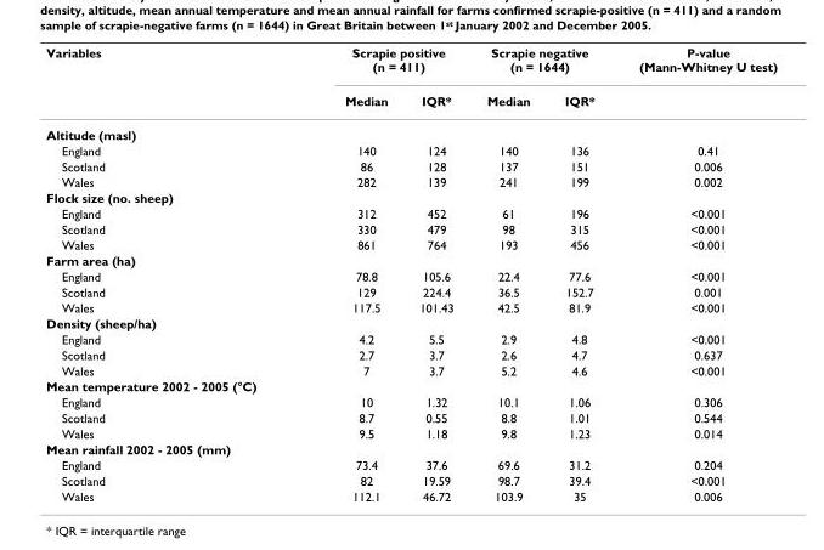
<table><thead><tr><td rowspan="2">Variables</td><td colspan="2">Scrapie positive (n = 411)</td><td colspan="2">Scrapie negative (n = 1644)</td><td rowspan="2">P-value (Mann-Whitney U test)</td></tr><tr><td>Median</td><td>IQR*</td><td>Median</td><td>IQR*</td></tr></thead><tbody><tr><td colspan="6">Altitude (masl)</td></tr><tr><td>England</td><td>140</td><td>124</td><td>140</td><td>136</td><td>0.41</td></tr><tr><td>Scotland</td><td>86</td><td>128</td><td>137</td><td>151</td><td>0.006</td></tr><tr><td>Wales</td><td>282</td><td>139</td><td>241</td><td>199</td><td>0.002</td></tr><tr><td colspan="6">Flock size (no. sheep)</td></tr><tr><td>England</td><td>312</td><td>452</td><td>61</td><td>196</td><td>&lt;0.001</td></tr><tr><td>Scotland</td><td>330</td><td>479</td><td>98</td><td>315</td><td>&lt;0.001</td></tr><tr><td>Wales</td><td>861</td><td>764</td><td>193</td><td>456</td><td>&lt;0.001</td></tr><tr><td colspan="6">Farm area (ha)</td></tr><tr><td>England</td><td>78.8</td><td>105.6</td><td>22.4</td><td>77.6</td><td>&lt;0.001</td></tr><tr><td>Scotland</td><td>129</td><td>224.4</td><td>36.5</td><td>152.7</td><td>0.001</td></tr><tr><td>Wales</td><td>117.5</td><td>101.43</td><td>42.5</td><td>81.9</td><td>&lt;0.001</td></tr><tr><td colspan="6">Density (sheep/ha)</td></tr><tr><td>England</td><td>4.2</td><td>5.5</td><td>2.9</td><td>4.8</td><td>&lt;0.001</td></tr><tr><td>Scotland</td><td>2.7</td><td>3.7</td><td>2.6</td><td>4.7</td><td>0.637</td></tr><tr><td>Wales</td><td>7</td><td>3.7</td><td>5.2</td><td>4.6</td><td>&lt;0.001</td></tr><tr><td colspan="6">Mean temperature 2002 - 2005 (°C)</td></tr><tr><td>England</td><td>10</td><td>1.32</td><td>10.1</td><td>1.06</td><td>0.306</td></tr><tr><td>Scotland</td><td>8.7</td><td>0.55</td><td>8.8</td><td>1.01</td><td>0.544</td></tr><tr><td>Wales</td><td>9.5</td><td>1.18</td><td>9.8</td><td>1.23</td><td>0.014</td></tr><tr><td colspan="6">Mean rainfall 2002 - 2005 (mm)</td></tr><tr><td>England</td><td>73.4</td><td>37.6</td><td>69.6</td><td>31.2</td><td>0.204</td></tr><tr><td>Scotland</td><td>82</td><td>19.59</td><td>98.7</td><td>39.4</td><td>&lt;0.001</td></tr><tr><td>Wales</td><td>112.1</td><td>46.72</td><td>103.9</td><td>35</td><td>0.006</td></tr></tbody></table>